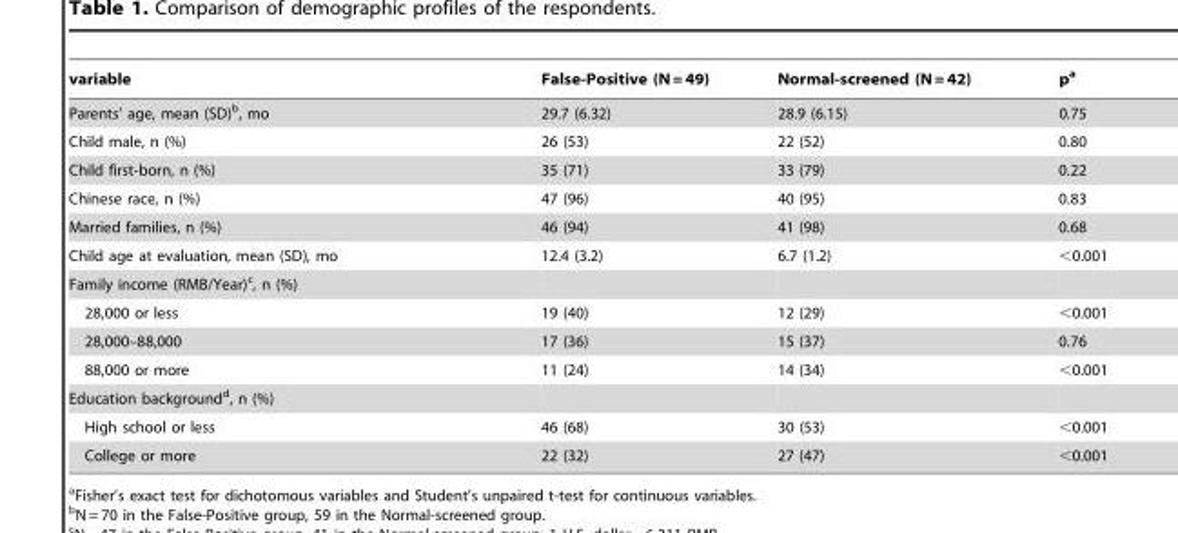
<table><thead><tr><td>variable</td><td>False-Positive (N = 49)</td><td>Normal-screened (N = 42)</td><td>p<sup>a</sup></td></tr></thead><tbody><tr><td>Parents’ age, mean (SD)<sup>b</sup>, mo</td><td>29.7 (6.32)</td><td>28.9 (6.15)</td><td>0.75</td></tr><tr><td>Child male, n (%)</td><td>26 (53)</td><td>22 (52)</td><td>0.80</td></tr><tr><td>Child first-born, n (%)</td><td>35 (71)</td><td>33 (79)</td><td>0.22</td></tr><tr><td>Chinese race, n (%)</td><td>47 (96)</td><td>40 (95)</td><td>0.83</td></tr><tr><td>Married families, n (%)</td><td>46 (94)</td><td>41 (98)</td><td>0.68</td></tr><tr><td>Child age at evaluation, mean (SD), mo</td><td>12.4 (3.2)</td><td>6.7 (1.2)</td><td>&lt;0.001</td></tr><tr><td colspan="4">Family income (RMB/Year)<sup>c</sup>, n (%)</td></tr><tr><td>28,000 or less</td><td>19 (40)</td><td>12 (29)</td><td>&lt;0.001</td></tr><tr><td>28,000–88,000</td><td>17 (36)</td><td>15 (37)</td><td>0.76</td></tr><tr><td>88,000 or more</td><td>11 (24)</td><td>14 (34)</td><td>&lt;0.001</td></tr><tr><td colspan="4">Education background<sup>d</sup>, n (%)</td></tr><tr><td>High school or less</td><td>46 (68)</td><td>30 (53)</td><td>&lt;0.001</td></tr><tr><td>College or more</td><td>22 (32)</td><td>27 (47)</td><td>&lt;0.001</td></tr></tbody></table>